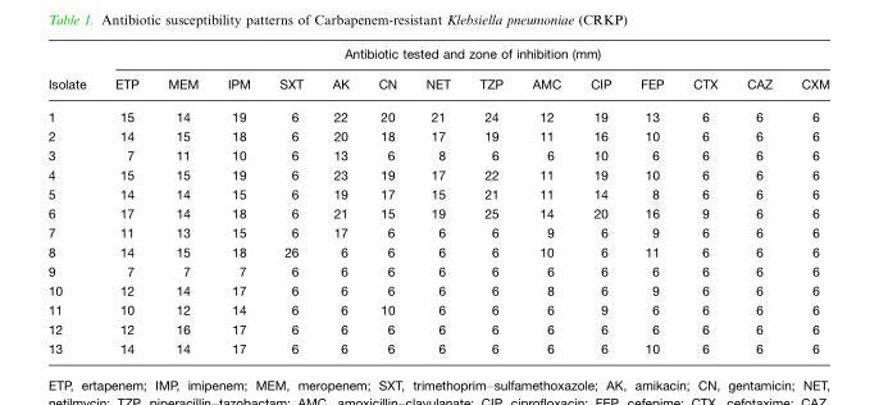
<table><thead><tr><td rowspan="2">Isolate</td><td colspan="14">Antibiotic tested and zone of inhibition (mm)</td></tr><tr><td>ETP</td><td>MEM</td><td>IPM</td><td>SXT</td><td>AK</td><td>CN</td><td>NET</td><td>TZP</td><td>AMC</td><td>CIP</td><td>FEP</td><td>CTX</td><td>CAZ</td><td>CXM</td></tr></thead><tbody><tr><td>1</td><td>15</td><td>14</td><td>19</td><td>6</td><td>22</td><td>20</td><td>21</td><td>24</td><td>12</td><td>19</td><td>13</td><td>6</td><td>6</td><td>6</td></tr><tr><td>2</td><td>14</td><td>15</td><td>18</td><td>6</td><td>20</td><td>18</td><td>17</td><td>19</td><td>11</td><td>16</td><td>10</td><td>6</td><td>6</td><td>6</td></tr><tr><td>3</td><td>7</td><td>11</td><td>10</td><td>6</td><td>13</td><td>6</td><td>8</td><td>6</td><td>6</td><td>10</td><td>6</td><td>6</td><td>6</td><td>6</td></tr><tr><td>4</td><td>15</td><td>15</td><td>19</td><td>6</td><td>23</td><td>19</td><td>17</td><td>22</td><td>11</td><td>19</td><td>10</td><td>6</td><td>6</td><td>6</td></tr><tr><td>5</td><td>14</td><td>14</td><td>15</td><td>6</td><td>19</td><td>17</td><td>15</td><td>21</td><td>11</td><td>14</td><td>8</td><td>6</td><td>6</td><td>6</td></tr><tr><td>6</td><td>17</td><td>14</td><td>18</td><td>6</td><td>21</td><td>15</td><td>19</td><td>25</td><td>14</td><td>20</td><td>16</td><td>9</td><td>6</td><td>6</td></tr><tr><td>7</td><td>11</td><td>13</td><td>15</td><td>6</td><td>17</td><td>6</td><td>6</td><td>6</td><td>9</td><td>6</td><td>9</td><td>6</td><td>6</td><td>6</td></tr><tr><td>8</td><td>14</td><td>15</td><td>18</td><td>26</td><td>6</td><td>6</td><td>6</td><td>6</td><td>10</td><td>6</td><td>11</td><td>6</td><td>6</td><td>6</td></tr><tr><td>9</td><td>7</td><td>7</td><td>7</td><td>6</td><td>6</td><td>6</td><td>6</td><td>6</td><td>6</td><td>6</td><td>6</td><td>6</td><td>6</td><td>6</td></tr><tr><td>10</td><td>12</td><td>14</td><td>17</td><td>6</td><td>6</td><td>6</td><td>6</td><td>6</td><td>8</td><td>6</td><td>9</td><td>6</td><td>6</td><td>6</td></tr><tr><td>11</td><td>10</td><td>12</td><td>14</td><td>6</td><td>6</td><td>10</td><td>6</td><td>6</td><td>6</td><td>9</td><td>6</td><td>6</td><td>6</td><td>6</td></tr><tr><td>12</td><td>12</td><td>16</td><td>17</td><td>6</td><td>6</td><td>6</td><td>6</td><td>6</td><td>6</td><td>6</td><td>6</td><td>6</td><td>6</td><td>6</td></tr><tr><td>13</td><td>14</td><td>14</td><td>17</td><td>6</td><td>6</td><td>6</td><td>6</td><td>6</td><td>6</td><td>6</td><td>10</td><td>6</td><td>6</td><td>6</td></tr></tbody></table>